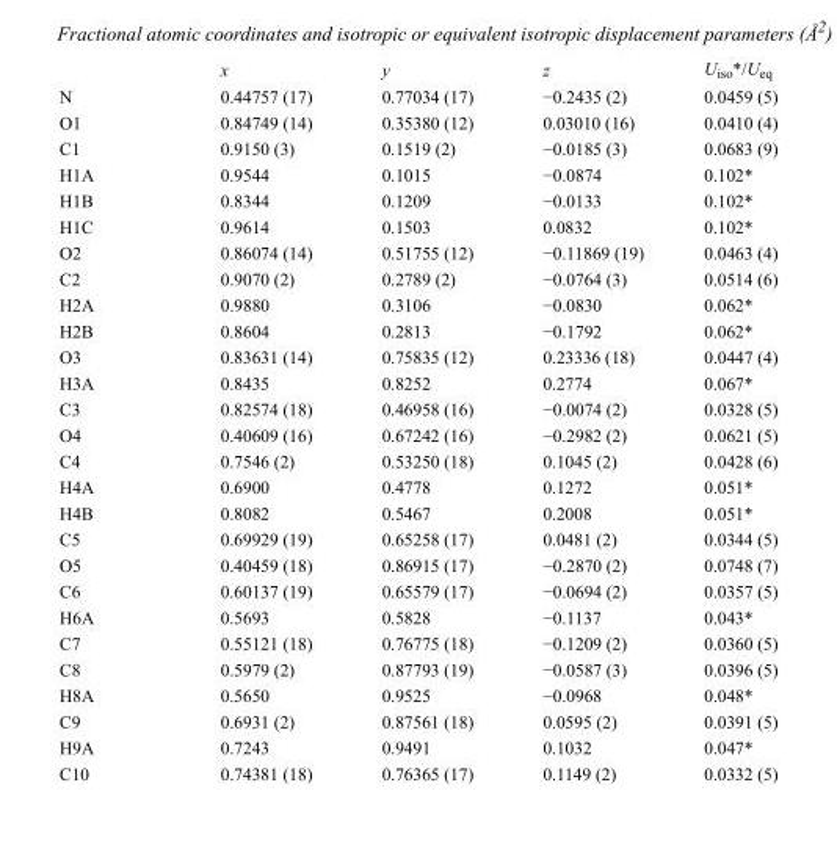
<table><thead><tr><td></td><td>x</td><td>y</td><td>z</td><td>U<sub>iso</sub>*/U<sub>eq</sub></td></tr></thead><tbody><tr><td>N</td><td>0.44757 (17)</td><td>0.77034 (17)</td><td>−0.2435 (2)</td><td>0.0459 (5)</td></tr><tr><td>O1</td><td>0.84749 (14)</td><td>0.35380 (12)</td><td>0.03010 (16)</td><td>0.0410 (4)</td></tr><tr><td>C1</td><td>0.9150 (3)</td><td>0.1519 (2)</td><td>−0.0185 (3)</td><td>0.0683 (9)</td></tr><tr><td>H1A</td><td>0.9544</td><td>0.1015</td><td>−0.0874</td><td>0.102*</td></tr><tr><td>H1B</td><td>0.8344</td><td>0.1209</td><td>−0.0133</td><td>0.102*</td></tr><tr><td>H1C</td><td>0.9614</td><td>0.1503</td><td>0.0832</td><td>0.102*</td></tr><tr><td>O2</td><td>0.86074 (14)</td><td>0.51755 (12)</td><td>−0.11869 (19)</td><td>0.0463 (4)</td></tr><tr><td>C2</td><td>0.9070 (2)</td><td>0.2789 (2)</td><td>−0.0764 (3)</td><td>0.0514 (6)</td></tr><tr><td>H2A</td><td>0.9880</td><td>0.3106</td><td>−0.0830</td><td>0.062*</td></tr><tr><td>H2B</td><td>0.8604</td><td>0.2813</td><td>−0.1792</td><td>0.062*</td></tr><tr><td>O3</td><td>0.83631 (14)</td><td>0.75835 (12)</td><td>0.23336 (18)</td><td>0.0447 (4)</td></tr><tr><td>H3A</td><td>0.8435</td><td>0.8252</td><td>0.2774</td><td>0.067*</td></tr><tr><td>C3</td><td>0.82574 (18)</td><td>0.46958 (16)</td><td>−0.0074 (2)</td><td>0.0328 (5)</td></tr><tr><td>O4</td><td>0.40609 (16)</td><td>0.67242 (16)</td><td>−0.2982 (2)</td><td>0.0621 (5)</td></tr><tr><td>C4</td><td>0.7546 (2)</td><td>0.53250 (18)</td><td>0.1045 (2)</td><td>0.0428 (6)</td></tr><tr><td>H4A</td><td>0.6900</td><td>0.4778</td><td>0.1272</td><td>0.051*</td></tr><tr><td>H4B</td><td>0.8082</td><td>0.5467</td><td>0.2008</td><td>0.051*</td></tr><tr><td>C5</td><td>0.69929 (19)</td><td>0.65258 (17)</td><td>0.0481 (2)</td><td>0.0344 (5)</td></tr><tr><td>O5</td><td>0.40459 (18)</td><td>0.86915 (17)</td><td>−0.2870 (2)</td><td>0.0748 (7)</td></tr><tr><td>C6</td><td>0.60137 (19)</td><td>0.65579 (17)</td><td>−0.0694 (2)</td><td>0.0357 (5)</td></tr><tr><td>H6A</td><td>0.5693</td><td>0.5828</td><td>−0.1137</td><td>0.043*</td></tr><tr><td>C7</td><td>0.55121 (18)</td><td>0.76775 (18)</td><td>−0.1209 (2)</td><td>0.0360 (5)</td></tr><tr><td>C8</td><td>0.5979 (2)</td><td>0.87793 (19)</td><td>−0.0587 (3)</td><td>0.0396 (5)</td></tr><tr><td>H8A</td><td>0.5650</td><td>0.9525</td><td>−0.0968</td><td>0.048*</td></tr><tr><td>C9</td><td>0.6931 (2)</td><td>0.87561 (18)</td><td>0.0595 (2)</td><td>0.0391 (5)</td></tr><tr><td>H9A</td><td>0.7243</td><td>0.9491</td><td>0.1032</td><td>0.047*</td></tr><tr><td>C10</td><td>0.74381 (18)</td><td>0.76365 (17)</td><td>0.1149 (2)</td><td>0.0332 (5)</td></tr></tbody></table>